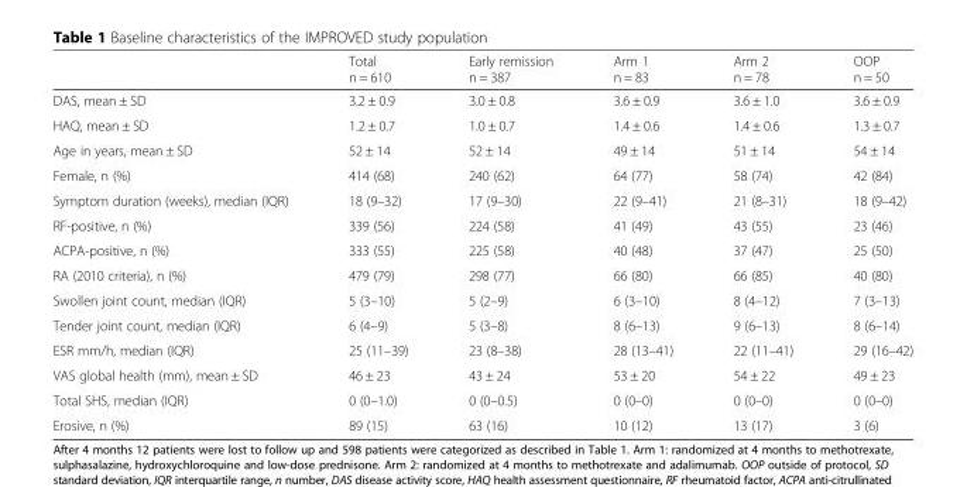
<table><thead><tr><td></td><td>Total n = 610</td><td>Early remission n = 387</td><td>Arm 1 n = 83</td><td>Arm 2 n = 78</td><td>OOP n = 50</td></tr></thead><tbody><tr><td>DAS, mean ± SD</td><td>3.2 ± 0.9</td><td>3.0 ± 0.8</td><td>3.6 ± 0.9</td><td>3.6 ± 1.0</td><td>3.6 ± 0.9</td></tr><tr><td>HAQ, mean ± SD</td><td>1.2 ± 0.7</td><td>1.0 ± 0.7</td><td>1.4 ± 0.6</td><td>1.4 ± 0.6</td><td>1.3 ± 0.7</td></tr><tr><td>Age in years, mean ± SD</td><td>52 ± 14</td><td>52 ± 14</td><td>49 ± 14</td><td>51 ± 14</td><td>54 ± 14</td></tr><tr><td>Female, n (%)</td><td>414 (68)</td><td>240 (62)</td><td>64 (77)</td><td>58 (74)</td><td>42 (84)</td></tr><tr><td>Symptom duration (weeks), median (IQR)</td><td>18 (9–32)</td><td>17 (9–30)</td><td>22 (9–41)</td><td>21 (8–31)</td><td>18 (9–42)</td></tr><tr><td>RF-positive, n (%)</td><td>339 (56)</td><td>224 (58)</td><td>41 (49)</td><td>43 (55)</td><td>23 (46)</td></tr><tr><td>ACPA-positive, n (%)</td><td>333 (55)</td><td>225 (58)</td><td>40 (48)</td><td>37 (47)</td><td>25 (50)</td></tr><tr><td>RA (2010 criteria), n (%)</td><td>479 (79)</td><td>298 (77)</td><td>66 (80)</td><td>66 (85)</td><td>40 (80)</td></tr><tr><td>Swollen joint count, median (IQR)</td><td>5 (3–10)</td><td>5 (2–9)</td><td>6 (3–10)</td><td>8 (4–12)</td><td>7 (3–13)</td></tr><tr><td>Tender joint count, median (IQR)</td><td>6 (4–9)</td><td>5 (3–8)</td><td>8 (6–13)</td><td>9 (6–13)</td><td>8 (6–14)</td></tr><tr><td>ESR mm/h, median (IQR)</td><td>25 (11–39)</td><td>23 (8–38)</td><td>28 (13–41)</td><td>22 (11–41)</td><td>29 (16–42)</td></tr><tr><td>VAS global health (mm), mean ± SD</td><td>46 ± 23</td><td>43 ± 24</td><td>53 ± 20</td><td>54 ± 22</td><td>49 ± 23</td></tr><tr><td>Total SHS, median (IQR)</td><td>0 (0–1.0)</td><td>0 (0–0.5)</td><td>0 (0–0)</td><td>0 (0–0)</td><td>0 (0–0)</td></tr><tr><td>Erosive, n (%)</td><td>89 (15)</td><td>63 (16)</td><td>10 (12)</td><td>13 (17)</td><td>3 (6)</td></tr></tbody></table>